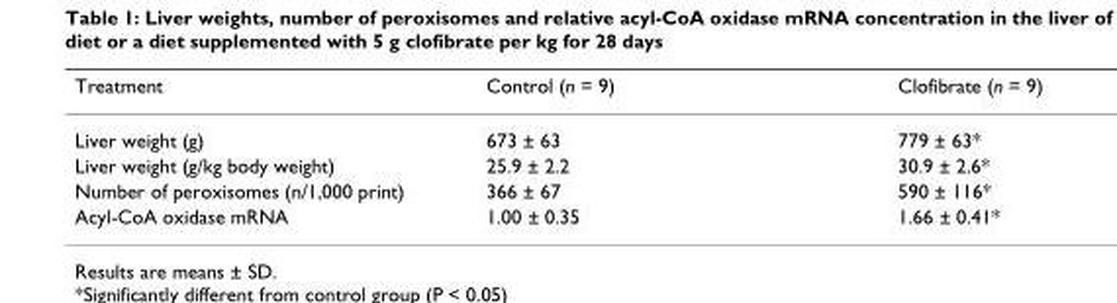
<table><thead><tr><td>Treatment</td><td>Control (n = 9)</td><td>Clofibrate (n = 9)</td></tr></thead><tbody><tr><td>Liver weight (g)</td><td>673 ± 63</td><td>779 ± 63*</td></tr><tr><td>Liver weight (g/kg body weight)</td><td>25.9 ± 2.2</td><td>30.9 ± 2.6*</td></tr><tr><td>Number of peroxisomes (n/1,000 print)</td><td>366 ± 67</td><td>590 ± 116*</td></tr><tr><td>Acyl-CoA oxidase mRNA</td><td>1.00 ± 0.35</td><td>1.66 ± 0.41*</td></tr></tbody></table>